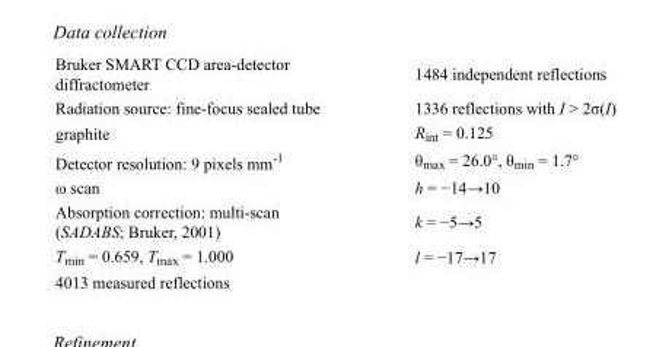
<table><tbody><tr><td>Bruker SMART CCD area-detector diffractometer</td><td>1484 independent reflections</td></tr><tr><td>Radiation source: fine-focus sealed tube</td><td>1336 reflections with I &gt; 2σ(I)</td></tr><tr><td>graphite</td><td>R<sub>int</sub> = 0.125</td></tr><tr><td>Detector resolution: 9 pixels mm<sup>-1</sup></td><td>θ<sub>max</sub> = 26.0°, θ<sub>min</sub> = 1.7°</td></tr><tr><td>ω scan</td><td>h = −14→10</td></tr><tr><td>Absorption correction: multi-scan (SADABS; Bruker, 2001)</td><td>k = −5→5</td></tr><tr><td>T<sub>min</sub> = 0.659, T<sub>max</sub> = 1.000</td><td>l = −17→17</td></tr><tr><td>4013 measured reflections</td><td></td></tr></tbody></table>